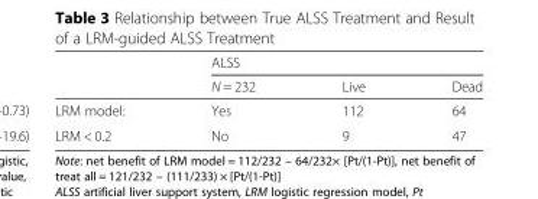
<table><thead><tr><td rowspan="2"></td><td colspan="3">ALSS</td></tr><tr><td>N = 232</td><td>Live</td><td>Dead</td></tr></thead><tbody><tr><td>LRM model:</td><td>Yes</td><td>112</td><td>64</td></tr><tr><td>LRM &lt; 0.2</td><td>No</td><td>9</td><td>47</td></tr></tbody></table>